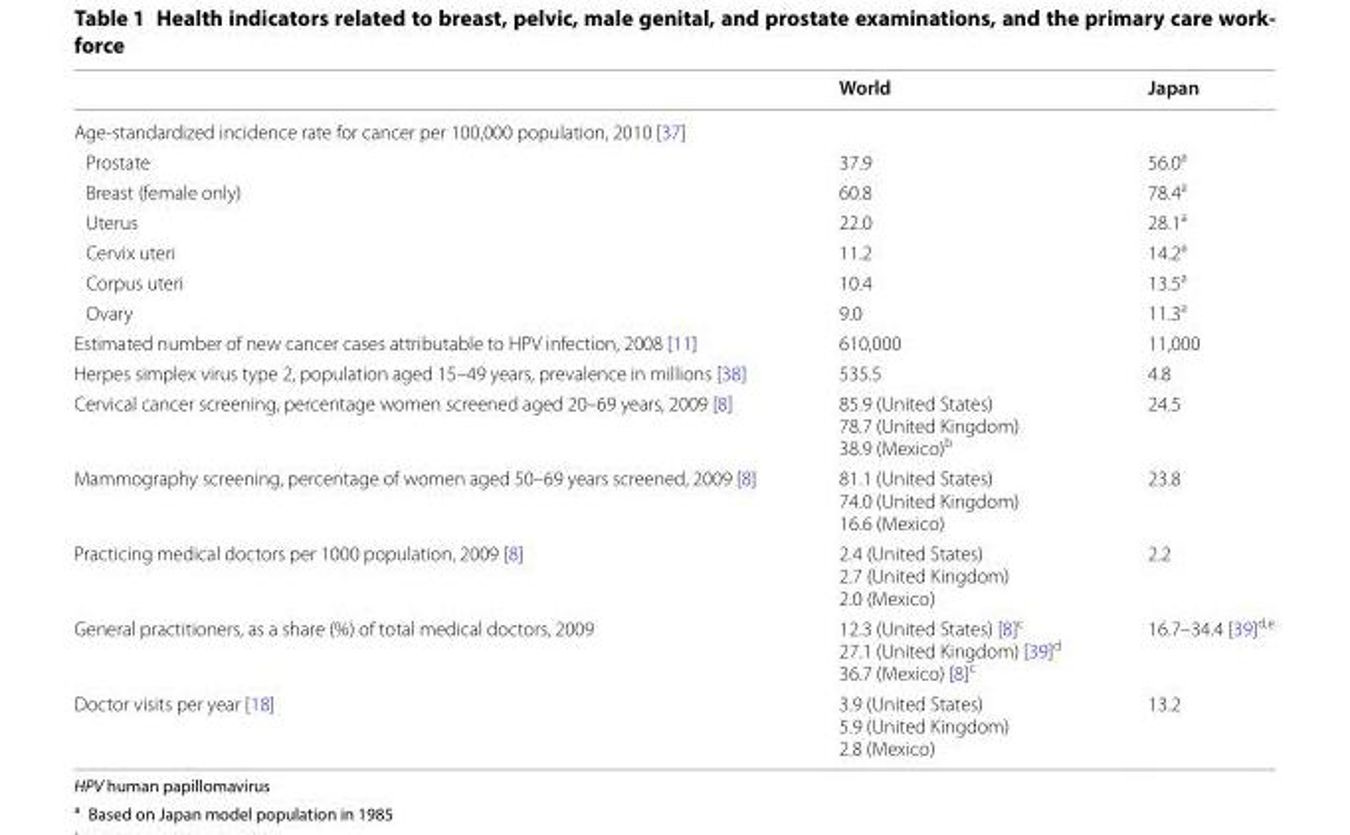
<table><thead><tr><td></td><td>World</td><td>Japan</td></tr></thead><tbody><tr><td colspan="3">Age-standardized incidence rate for cancer per 100,000 population, 2010 [37]</td></tr><tr><td>Prostate</td><td>37.9</td><td>56.0<sup>a</sup></td></tr><tr><td>Breast (female only)</td><td>60.8</td><td>78.4<sup>a</sup></td></tr><tr><td>Uterus</td><td>22.0</td><td>28.1<sup>a</sup></td></tr><tr><td>Cervix uteri</td><td>11.2</td><td>14.2<sup>a</sup></td></tr><tr><td>Corpus uteri</td><td>10.4</td><td>13.5<sup>a</sup></td></tr><tr><td>Ovary</td><td>9.0</td><td>11.3<sup>a</sup></td></tr><tr><td>Estimated number of new cancer cases attributable to HPV infection, 2008 [11]</td><td>610,000</td><td>11,000</td></tr><tr><td>Herpes simplex virus type 2, population aged 15–49 years, prevalence in millions [38]</td><td>535.5</td><td>4.8</td></tr><tr><td>Cervical cancer screening, percentage women screened aged 20–69 years, 2009 [8]</td><td>85.9 (United States) 78.7 (United Kingdom) 38.9 (Mexico)<sup>b</sup></td><td>24.5</td></tr><tr><td>Mammography screening, percentage of women aged 50–69 years screened, 2009 [8]</td><td>81.1 (United States) 74.0 (United Kingdom) 16.6 (Mexico)</td><td>23.8</td></tr><tr><td>Practicing medical doctors per 1000 population, 2009 [8]</td><td>2.4 (United States) 2.7 (United Kingdom) 2.0 (Mexico)</td><td>2.2</td></tr><tr><td>General practitioners, as a share (%) of total medical doctors, 2009</td><td>12.3 (United States) [8]<sup>c</sup> 27.1 (United Kingdom) [39]<sup>d</sup> 36.7 (Mexico) [8]<sup>c</sup></td><td>16.7–34.4 [39]<sup>d,e</sup></td></tr><tr><td>Doctor visits per year [18]</td><td>3.9 (United States) 5.9 (United Kingdom) 2.8 (Mexico)</td><td>13.2</td></tr></tbody></table>